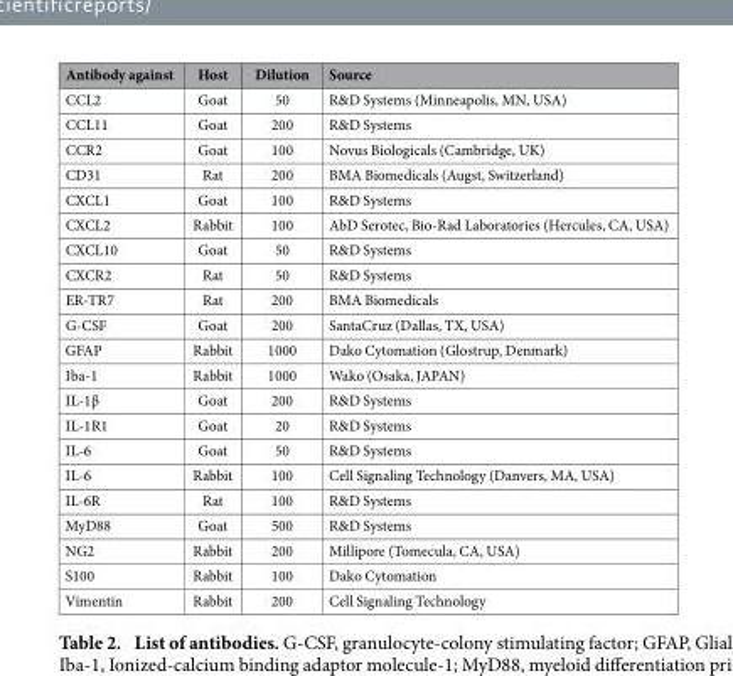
<table><thead><tr><td>Antibody against</td><td>Host</td><td>Dilution</td><td>Source</td></tr></thead><tbody><tr><td>CCL2</td><td>Goat</td><td>50</td><td>R&amp;D Systems (Minneapolis, MN, USA)</td></tr><tr><td>CCL11</td><td>Goat</td><td>200</td><td>R&amp;D Systems</td></tr><tr><td>CCR2</td><td>Goat</td><td>100</td><td>Novus Biologicals (Cambridge, UK)</td></tr><tr><td>CD31</td><td>Rat</td><td>200</td><td>BMA Biomedicals (Augst, Switzerland)</td></tr><tr><td>CXCL1</td><td>Goat</td><td>100</td><td>R&amp;D Systems</td></tr><tr><td>CXCL2</td><td>Rabbit</td><td>100</td><td>AbD Serotec, Bio-Rad Laboratories (Hercules, CA, USA)</td></tr><tr><td>CXCL10</td><td>Goat</td><td>50</td><td>R&amp;D Systems</td></tr><tr><td>CXCR2</td><td>Rat</td><td>50</td><td>R&amp;D Systems</td></tr><tr><td>ER-TR7</td><td>Rat</td><td>200</td><td>BMA Biomedicals</td></tr><tr><td>G-CSF</td><td>Goat</td><td>200</td><td>SantaCruz (Dallas, TX, USA)</td></tr><tr><td>GFAP</td><td>Rabbit</td><td>1000</td><td>Dako Cytomation (Glostrup, Denmark)</td></tr><tr><td>Iba-1</td><td>Rabbit</td><td>1000</td><td>Wako (Osaka, JAPAN)</td></tr><tr><td>IL-1β</td><td>Goat</td><td>200</td><td>R&amp;D Systems</td></tr><tr><td>IL-1R1</td><td>Goat</td><td>20</td><td>R&amp;D Systems</td></tr><tr><td>IL-6</td><td>Goat</td><td>50</td><td>R&amp;D Systems</td></tr><tr><td>IL-6</td><td>Rabbit</td><td>100</td><td>Cell Signaling Technology (Danvers, MA, USA)</td></tr><tr><td>IL-6R</td><td>Rat</td><td>100</td><td>R&amp;D Systems</td></tr><tr><td>MyD88</td><td>Goat</td><td>500</td><td>R&amp;D Systems</td></tr><tr><td>NG2</td><td>Rabbit</td><td>200</td><td>Millipore (Tomecula, CA, USA)</td></tr><tr><td>S100</td><td>Rabbit</td><td>100</td><td>Dako Cytomation</td></tr><tr><td>Vimentin</td><td>Rabbit</td><td>200</td><td>Cell Signaling Technology</td></tr></tbody></table>